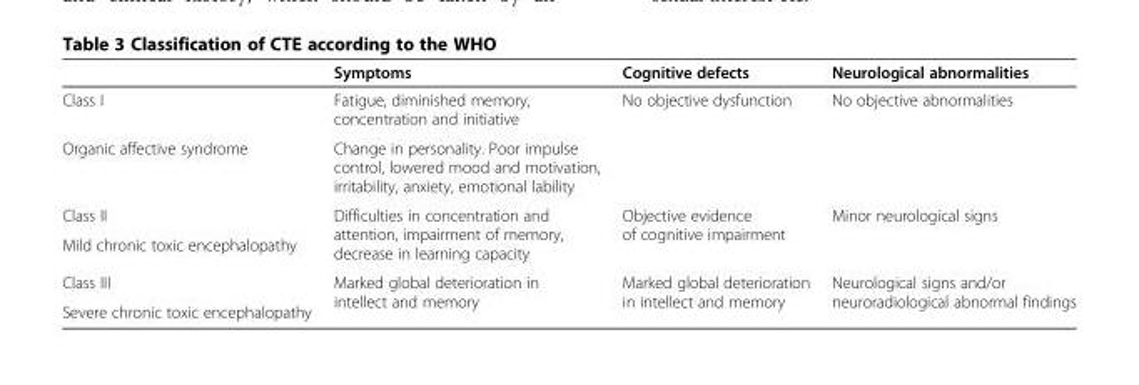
<table><thead><tr><td></td><td>Symptoms</td><td>Cognitive defects</td><td>Neurological abnormalities</td></tr></thead><tbody><tr><td>Class I</td><td>Fatigue, diminished memory, concentration and initiative</td><td rowspan="2">No objective dysfunction</td><td rowspan="2">No objective abnormalities</td></tr><tr><td>Organic affective syndrome</td><td>Change in personality. Poor impulse control, lowered mood and motivation, irritability, anxiety, emotional lability</td></tr><tr><td>Class II</td><td rowspan="2">Difficulties in concentration and attention, impairment of memory, decrease in learning capacity</td><td rowspan="2">Objective evidence of cognitive impairment</td><td rowspan="2">Minor neurological signs</td></tr><tr><td>Mild chronic toxic encephalopathy</td></tr><tr><td>Class III</td><td rowspan="2">Marked global deterioration in intellect and memory</td><td rowspan="2">Marked global deterioration in intellect and memory</td><td rowspan="2">Neurological signs and/or neuroradiological abnormal findings</td></tr><tr><td>Severe chronic toxic encephalopathy</td></tr></tbody></table>